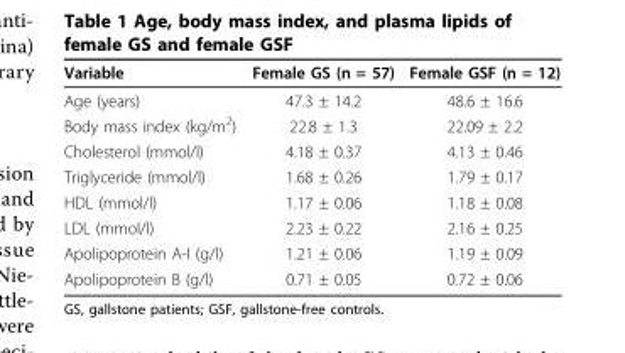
<table><thead><tr><td>Variable</td><td>Female GS (n = 57)</td><td>Female GSF (n = 12)</td></tr></thead><tbody><tr><td>Age (years)</td><td>47.3 ± 14.2</td><td>48.6 ± 16.6</td></tr><tr><td>Body mass index (kg/m<sup>2</sup>)</td><td>22.8 ± 1.3</td><td>22.09 ± 2.2</td></tr><tr><td>Cholesterol (mmol/l)</td><td>4.18 ± 0.37</td><td>4.13 ± 0.46</td></tr><tr><td>Triglyceride (mmol/l)</td><td>1.68 ± 0.26</td><td>1.79 ± 0.17</td></tr><tr><td>HDL (mmol/l)</td><td>1.17 ± 0.06</td><td>1.18 ± 0.08</td></tr><tr><td>LDL (mmol/l)</td><td>2.23 ± 0.22</td><td>2.16 ± 0.25</td></tr><tr><td>Apolipoprotein A-I (g/l)</td><td>1.21 ± 0.06</td><td>1.19 ± 0.09</td></tr><tr><td>Apolipoprotein B (g/l)</td><td>0.71 ± 0.05</td><td>0.72 ± 0.06</td></tr></tbody></table>